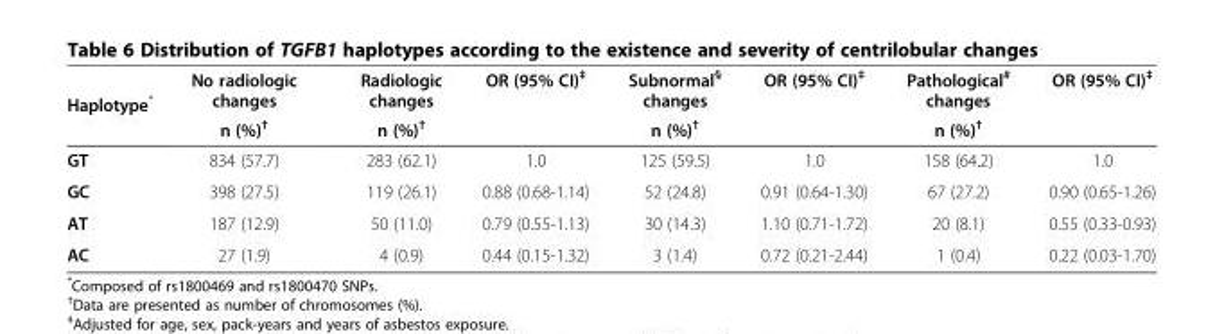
<table><thead><tr><td rowspan="2">Haplotype*</td><td rowspan="2">No radiologic changes n (%)<sup>†</sup></td><td rowspan="2">Radiologic changes n (%)<sup>†</sup></td><td rowspan="2">OR (95% CI)<sup>‡</sup></td><td rowspan="2">Subnormal<sup>§</sup> changes n (%)<sup>†</sup></td><td rowspan="2">OR (95% CI)<sup>‡</sup></td><td rowspan="2">Pathological<sup>#</sup> changes n (%)<sup>†</sup></td><td rowspan="2">OR (95% CI)<sup>‡</sup></td></tr><tr></tr></thead><tbody><tr><td>GT</td><td>834 (57.7)</td><td>283 (62.1)</td><td>1.0</td><td>125 (59.5)</td><td>1.0</td><td>158 (64.2)</td><td>1.0</td></tr><tr><td>GC</td><td>398 (27.5)</td><td>119 (26.1)</td><td>0.88 (0.68-1.14)</td><td>52 (24.8)</td><td>0.91 (0.64-1.30)</td><td>67 (27.2)</td><td>0.90 (0.65-1.26)</td></tr><tr><td>AT</td><td>187 (12.9)</td><td>50 (11.0)</td><td>0.79 (0.55-1.13)</td><td>30 (14.3)</td><td>1.10 (0.71-1.72)</td><td>20 (8.1)</td><td>0.55 (0.33-0.93)</td></tr><tr><td>AC</td><td>27 (1.9)</td><td>4 (0.9)</td><td>0.44 (0.15-1.32)</td><td>3 (1.4)</td><td>0.72 (0.21-2.44)</td><td>1 (0.4)</td><td>0.22 (0.03-1.70)</td></tr></tbody></table>